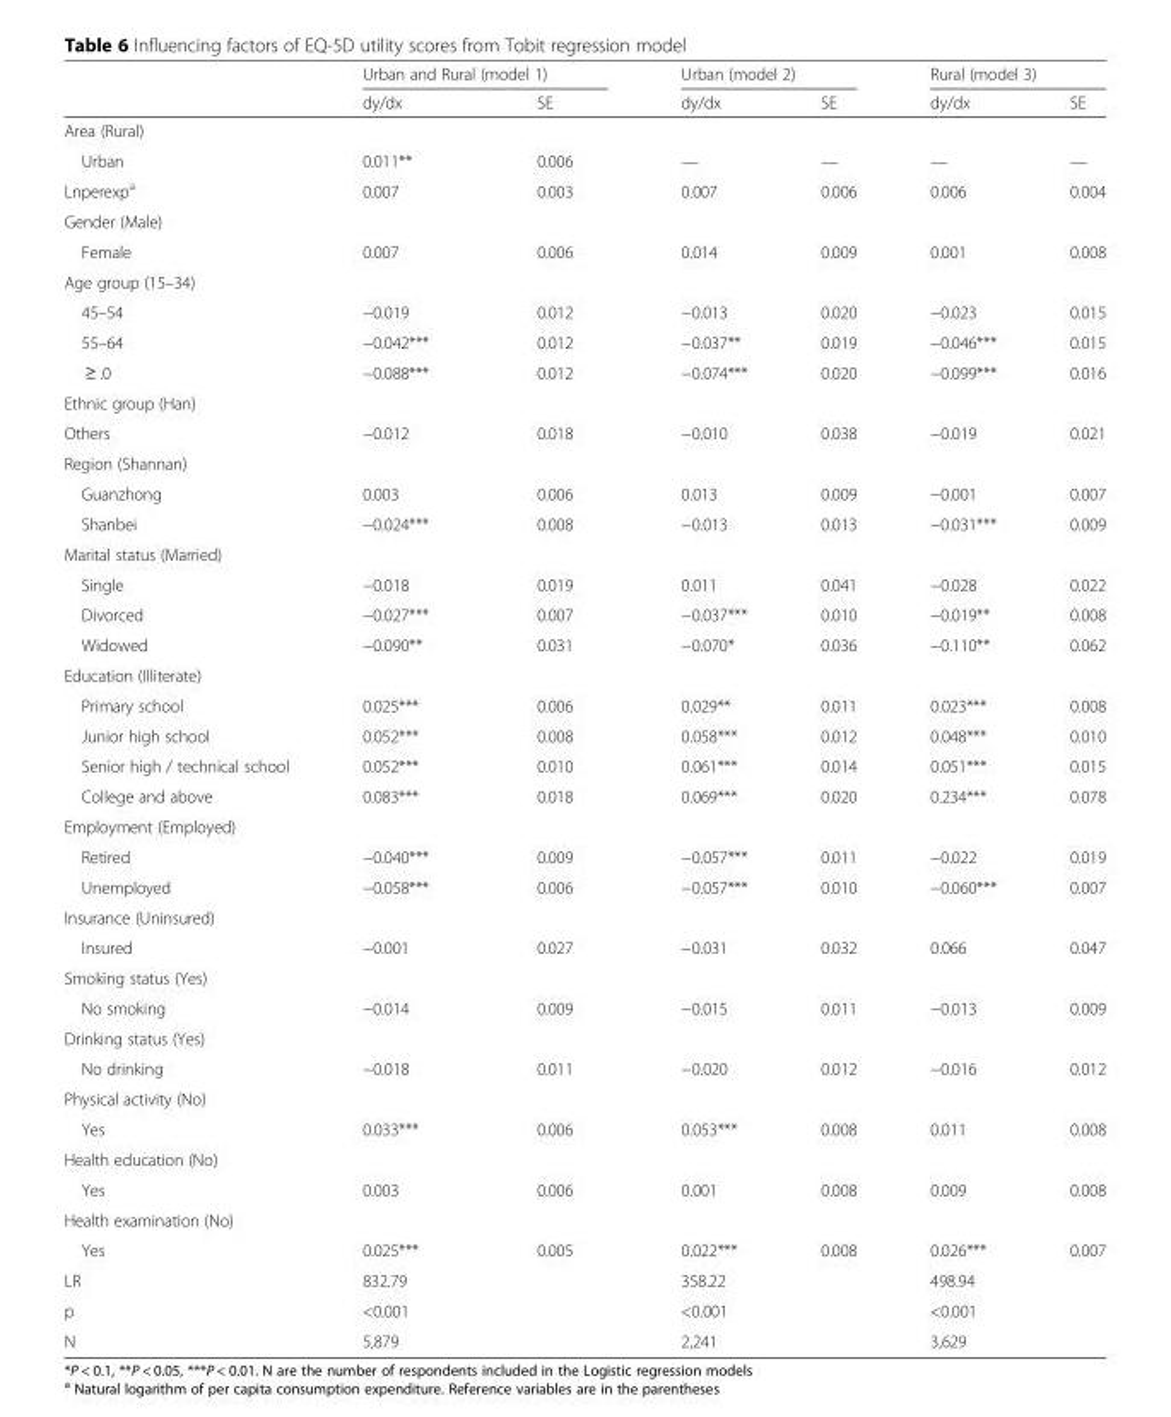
<table><thead><tr><td rowspan="2"></td><td colspan="2">Urban and Rural (model 1)</td><td colspan="2">Urban (model 2)</td><td colspan="2">Rural (model 3)</td></tr><tr><td>dy/dx</td><td>SE</td><td>dy/dx</td><td>SE</td><td>dy/dx</td><td>SE</td></tr></thead><tbody><tr><td colspan="7">Area (Rural)</td></tr><tr><td>Urban</td><td>0.011**</td><td>0.006</td><td>—</td><td>—</td><td>—</td><td>—</td></tr><tr><td>Lnperexp<sup>a</sup></td><td>0.007</td><td>0.003</td><td>0.007</td><td>0.006</td><td>0.006</td><td>0.004</td></tr><tr><td colspan="7">Gender (Male)</td></tr><tr><td>Female</td><td>0.007</td><td>0.006</td><td>0.014</td><td>0.009</td><td>0.001</td><td>0.008</td></tr><tr><td colspan="7">Age group (15–34)</td></tr><tr><td>45–54</td><td>−0.019</td><td>0.012</td><td>−0.013</td><td>0.020</td><td>−0.023</td><td>0.015</td></tr><tr><td>55–64</td><td>−0.042***</td><td>0.012</td><td>−0.037**</td><td>0.019</td><td>−0.046***</td><td>0.015</td></tr><tr><td>≥ .0</td><td>−0.088***</td><td>0.012</td><td>−0.074***</td><td>0.020</td><td>−0.099***</td><td>0.016</td></tr><tr><td colspan="7">Ethnic group (Han)</td></tr><tr><td>Others</td><td>−0.012</td><td>0.018</td><td>−0.010</td><td>0.038</td><td>−0.019</td><td>0.021</td></tr><tr><td colspan="7">Region (Shannan)</td></tr><tr><td>Guanzhong</td><td>0.003</td><td>0.006</td><td>0.013</td><td>0.009</td><td>−0.001</td><td>0.007</td></tr><tr><td>Shanbei</td><td>−0.024***</td><td>0.008</td><td>−0.013</td><td>0.013</td><td>−0.031***</td><td>0.009</td></tr><tr><td colspan="7">Marital status (Married)</td></tr><tr><td>Single</td><td>−0.018</td><td>0.019</td><td>0.011</td><td>0.041</td><td>−0.028</td><td>0.022</td></tr><tr><td>Divorced</td><td>−0.027***</td><td>0.007</td><td>−0.037***</td><td>0.010</td><td>−0.019**</td><td>0.008</td></tr><tr><td>Widowed</td><td>−0.090**</td><td>0.031</td><td>−0.070*</td><td>0.036</td><td>−0.110**</td><td>0.062</td></tr><tr><td colspan="7">Education (Illiterate)</td></tr><tr><td>Primary school</td><td>0.025***</td><td>0.006</td><td>0.029**</td><td>0.011</td><td>0.023***</td><td>0.008</td></tr><tr><td>Junior high school</td><td>0.052***</td><td>0.008</td><td>0.058***</td><td>0.012</td><td>0.048***</td><td>0.010</td></tr><tr><td>Senior high / technical school</td><td>0.052***</td><td>0.010</td><td>0.061***</td><td>0.014</td><td>0.051***</td><td>0.015</td></tr><tr><td>College and above</td><td>0.083***</td><td>0.018</td><td>0.069***</td><td>0.020</td><td>0.234***</td><td>0.078</td></tr><tr><td colspan="7">Employment (Employed)</td></tr><tr><td>Retired</td><td>−0.040***</td><td>0.009</td><td>−0.057***</td><td>0.011</td><td>−0.022</td><td>0.019</td></tr><tr><td>Unemployed</td><td>−0.058***</td><td>0.006</td><td>−0.057***</td><td>0.010</td><td>−0.060***</td><td>0.007</td></tr><tr><td colspan="7">Insurance (Uninsured)</td></tr><tr><td>Insured</td><td>−0.001</td><td>0.027</td><td>−0.031</td><td>0.032</td><td>0.066</td><td>0.047</td></tr><tr><td colspan="7">Smoking status (Yes)</td></tr><tr><td>No smoking</td><td>−0.014</td><td>0.009</td><td>−0.015</td><td>0.011</td><td>−0.013</td><td>0.009</td></tr><tr><td colspan="7">Drinking status (Yes)</td></tr><tr><td>No drinking</td><td>−0.018</td><td>0.011</td><td>−0.020</td><td>0.012</td><td>−0.016</td><td>0.012</td></tr><tr><td colspan="7">Physical activity (No)</td></tr><tr><td>Yes</td><td>0.033***</td><td>0.006</td><td>0.053***</td><td>0.008</td><td>0.011</td><td>0.008</td></tr><tr><td colspan="7">Health education (No)</td></tr><tr><td>Yes</td><td>0.003</td><td>0.006</td><td>0.001</td><td>0.008</td><td>0.009</td><td>0.008</td></tr><tr><td colspan="7">Health examination (No)</td></tr><tr><td>Yes</td><td>0.025***</td><td>0.005</td><td>0.022***</td><td>0.008</td><td>0.026***</td><td>0.007</td></tr><tr><td>LR</td><td colspan="2">832.79</td><td colspan="2">358.22</td><td colspan="2">498.94</td></tr><tr><td>p</td><td colspan="2">&lt;0.001</td><td colspan="2">&lt;0.001</td><td colspan="2">&lt;0.001</td></tr><tr><td>N</td><td colspan="2">5,879</td><td colspan="2">2,241</td><td colspan="2">3,629</td></tr></tbody></table>